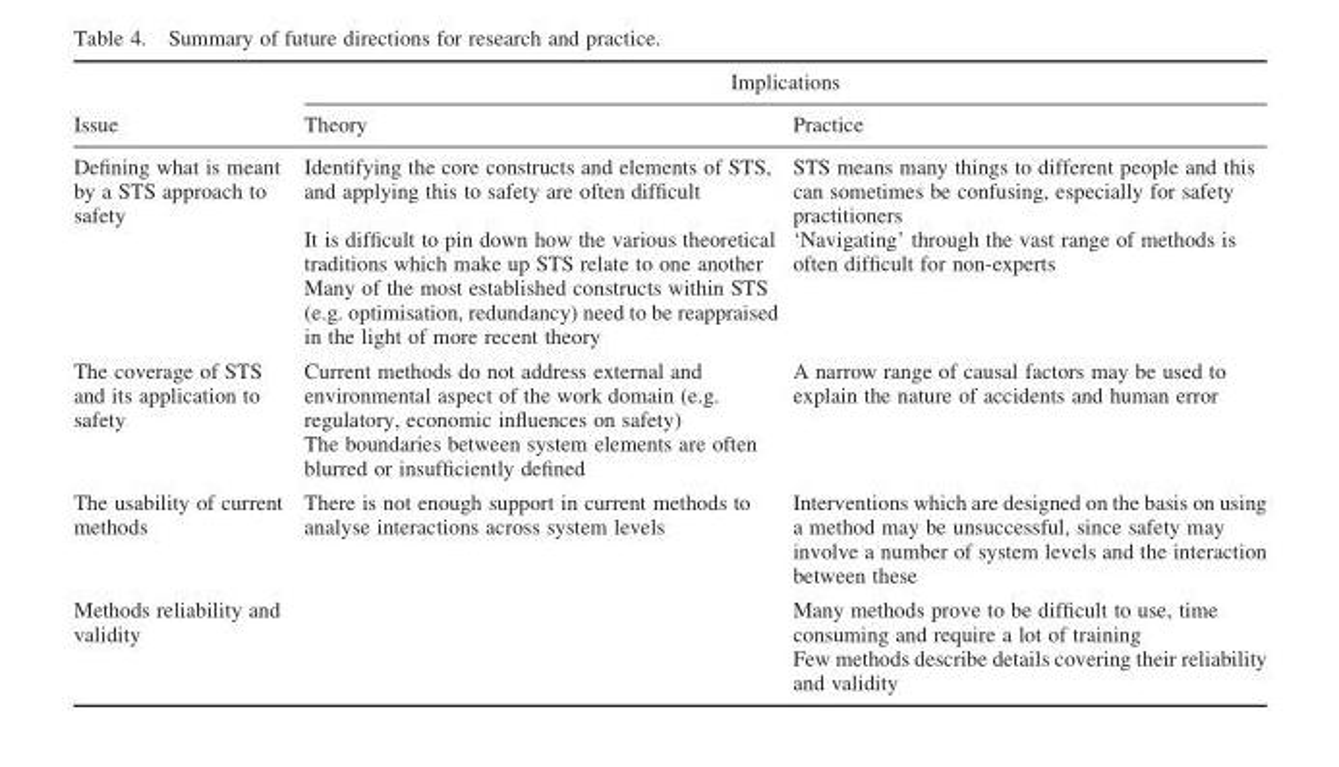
<table><thead><tr><td rowspan="2">Issue</td><td colspan="2">Implications</td></tr><tr><td>Theory</td><td>Practice</td></tr></thead><tbody><tr><td rowspan="3">Defining what is meant by a STS approach to safety</td><td>Identifying the core constructs and elements of STS, and applying this to safety are often difficult</td><td>STS means many things to different people and this can sometimes be confusing, especially for safety practitioners</td></tr><tr><td>It is difficult to pin down how the various theoretical traditions which make up STS relate to one another</td><td>‘Navigating’ through the vast range of methods is often difficult for non-experts</td></tr><tr><td>Many of the most established constructs within STS (e.g. optimisation, redundancy) need to be reappraised in the light of more recent theory</td><td></td></tr><tr><td rowspan="2">The coverage of STS and its application to safety</td><td>Current methods do not address external and environmental aspect of the work domain (e.g. regulatory, economic influences on safety)</td><td>A narrow range of causal factors may be used to explain the nature of accidents and human error</td></tr><tr><td>The boundaries between system elements are often blurred or insufficiently defined</td><td></td></tr><tr><td>The usability of current methods</td><td>There is not enough support in current methods to analyse interactions across system levels</td><td>Interventions which are designed on the basis on using a method may be unsuccessful, since safety may involve a number of system levels and the interaction between these</td></tr><tr><td rowspan="2">Methods reliability and validity</td><td></td><td>Many methods prove to be difficult to use, time consuming and require a lot of training</td></tr><tr><td></td><td>Few methods describe details covering their reliability and validity</td></tr></tbody></table>